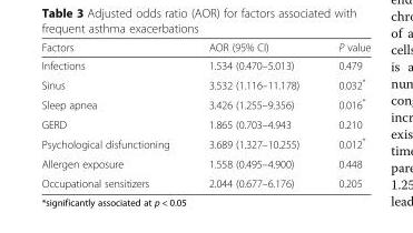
<table><thead><tr><td>Factors</td><td>AOR (95% CI)</td><td>P value</td></tr></thead><tbody><tr><td>Infections</td><td>1.534 (0.470–5.013)</td><td>0.479</td></tr><tr><td>Sinus</td><td>3.532 (1.116–11.178)</td><td>0.032*</td></tr><tr><td>Sleep apnea</td><td>3.426 (1.255–9.356)</td><td>0.016*</td></tr><tr><td>GERD</td><td>1.865 (0.703–4.943</td><td>0.210</td></tr><tr><td>Psychological disfunctioning</td><td>3.689 (1.327–10.255)</td><td>0.012*</td></tr><tr><td>Allergen exposure</td><td>1.558 (0.495–4.900)</td><td>0.448</td></tr><tr><td>Occupational sensitizers</td><td>2.044 (0.677–6.176)</td><td>0.205</td></tr></tbody></table>